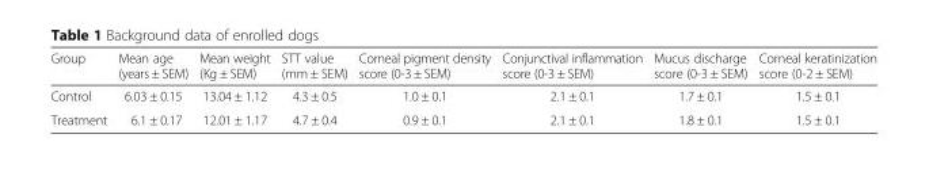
<table><thead><tr><td>Group</td><td>Mean age (years ± SEM)</td><td>Mean weight (Kg ± SEM)</td><td>STT value (mm ± SEM)</td><td>Corneal pigment density score (0-3 ± SEM)</td><td>Conjunctival inflammation score (0-3 ± SEM)</td><td>Mucus discharge score (0-3 ± SEM)</td><td>Corneal keratinization score (0-2 ± SEM)</td></tr></thead><tbody><tr><td>Control</td><td>6.03 ± 0.15</td><td>13.04 ± 1.12</td><td>4.3 ± 0.5</td><td>1.0 ± 0.1</td><td>2.1 ± 0.1</td><td>1.7 ± 0.1</td><td>1.5 ± 0.1</td></tr><tr><td>Treatment</td><td>6.1 ± 0.17</td><td>12.01 ± 1.17</td><td>4.7 ± 0.4</td><td>0.9 ± 0.1</td><td>2.1 ± 0.1</td><td>1.8 ± 0.1</td><td>1.5 ± 0.1</td></tr></tbody></table>